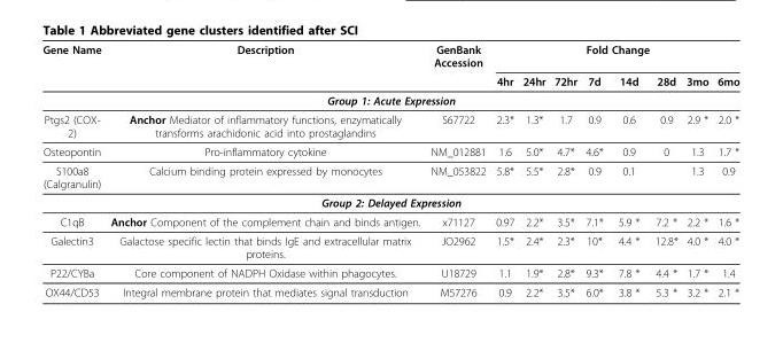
<table><thead><tr><td rowspan="2">Gene Name</td><td rowspan="2">Description</td><td rowspan="2">GenBank Accession</td><td colspan="8">Fold Change</td></tr><tr><td>4hr</td><td>24hr</td><td>72hr</td><td>7d</td><td>14d</td><td>28d</td><td>3mo</td><td>6mo</td></tr></thead><tbody><tr><td colspan="11">Group 1: Acute Expression</td></tr><tr><td>Ptgs2 (COX- 2)</td><td>Anchor Mediator of inflammatory functions, enzymatically transforms arachidonic acid into prostaglandins</td><td>S67722</td><td>2.3*</td><td>1.3*</td><td>1.7</td><td>0.9</td><td>0.6</td><td>0.9</td><td>2.9 *</td><td>2.0 *</td></tr><tr><td>Osteopontin</td><td>Pro-inflammatory cytokine</td><td>NM_012881</td><td>1.6</td><td>5.0*</td><td>4.7*</td><td>4.6*</td><td>0.9</td><td>0</td><td>1.3</td><td>1.7 *</td></tr><tr><td>S100a8 (Calgranulin)</td><td>Calcium binding protein expressed by monocytes</td><td>NM_053822</td><td>5.8*</td><td>5.5*</td><td>2.8*</td><td>0.9</td><td>0.1</td><td></td><td>1.3</td><td>0.9</td></tr><tr><td colspan="11">Group 2: Delayed Expression</td></tr><tr><td>C1qB</td><td>Anchor Component of the complement chain and binds antigen.</td><td>x71127</td><td>0.97</td><td>2.2*</td><td>3.5*</td><td>7.1*</td><td>5.9 *</td><td>7.2 *</td><td>2.2 *</td><td>1.6 *</td></tr><tr><td>Galectin3</td><td>Galactose specific lectin that binds IgE and extracellular matrix proteins.</td><td>JO2962</td><td>1.5*</td><td>2.4*</td><td>2.3*</td><td>10*</td><td>4.4 *</td><td>12.8*</td><td>4.0 *</td><td>4.0 *</td></tr><tr><td>P22/CYBa</td><td>Core component of NADPH Oxidase within phagocytes.</td><td>U18729</td><td>1.1</td><td>1.9*</td><td>2.8*</td><td>9.3*</td><td>7.8 *</td><td>4.4 *</td><td>1.7 *</td><td>1.4</td></tr><tr><td>OX44/CD53</td><td>Integral membrane protein that mediates signal transduction</td><td>M57276</td><td>0.9</td><td>2.2*</td><td>3.5*</td><td>6.0*</td><td>3.8 *</td><td>5.3 *</td><td>3.2 *</td><td>2.1 *</td></tr></tbody></table>